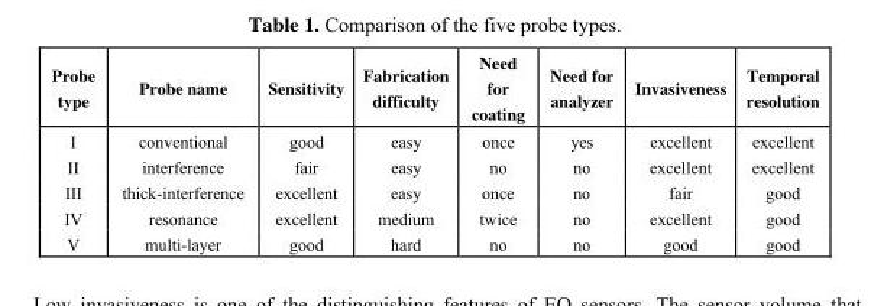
<table><thead><tr><td>Probe type</td><td>Probe name</td><td>Sensitivity</td><td>Fabrication difficulty</td><td>Need for coating</td><td>Need for analyzer</td><td>Invasiveness</td><td>Temporal resolution</td></tr></thead><tbody><tr><td>I</td><td>conventional</td><td>good</td><td>easy</td><td>once</td><td>yes</td><td>excellent</td><td>excellent</td></tr><tr><td>II</td><td>interference</td><td>fair</td><td>easy</td><td>no</td><td>no</td><td>excellent</td><td>excellent</td></tr><tr><td>III</td><td>thick-interference</td><td>excellent</td><td>easy</td><td>once</td><td>no</td><td>fair</td><td>good</td></tr><tr><td>IV</td><td>resonance</td><td>excellent</td><td>medium</td><td>twice</td><td>no</td><td>excellent</td><td>good</td></tr><tr><td>V</td><td>multi-layer</td><td>good</td><td>hard</td><td>no</td><td>no</td><td>good</td><td>good</td></tr></tbody></table>